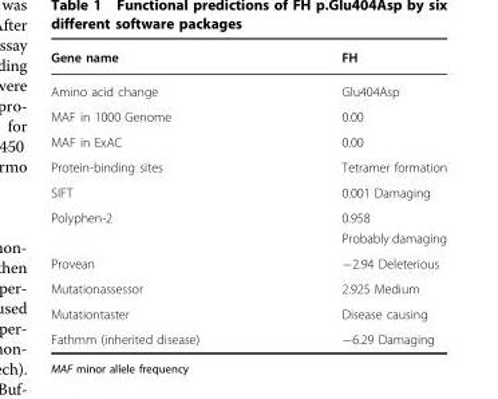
<table><thead><tr><td>Gene name</td><td>FH</td></tr></thead><tbody><tr><td>Amino acid change</td><td>Glu404Asp</td></tr><tr><td>MAF in 1000 Genome</td><td>0.00</td></tr><tr><td>MAF in ExAC</td><td>0.00</td></tr><tr><td>Protein-binding sites</td><td>Tetramer formation</td></tr><tr><td>SIFT</td><td>0.001 Damaging</td></tr><tr><td>Polyphen-2</td><td>0.958 Probably damaging</td></tr><tr><td>Provean</td><td>−2.94 Deleterious</td></tr><tr><td>Mutationassessor</td><td>2.925 Medium</td></tr><tr><td>Mutationtaster</td><td>Disease causing</td></tr><tr><td>Fathmm (inherited disease)</td><td>−6.29 Damaging</td></tr></tbody></table>